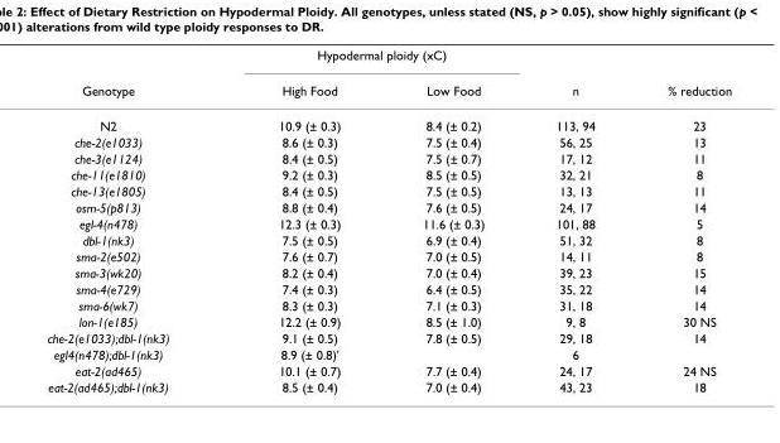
<table><thead><tr><td rowspan="2">Genotype</td><td colspan="2">Hypodermal ploidy (xC)</td><td rowspan="2">n</td><td rowspan="2">% reduction</td></tr><tr><td>High Food</td><td>Low Food</td></tr></thead><tbody><tr><td>N2</td><td>10.9 (± 0.3)</td><td>8.4 (± 0.2)</td><td>113, 94</td><td>23</td></tr><tr><td>che-2(e1033)</td><td>8.6 (± 0.3)</td><td>7.5 (± 0.4)</td><td>56, 25</td><td>13</td></tr><tr><td>che-3(e1124)</td><td>8.4 (± 0.5)</td><td>7.5 (± 0.7)</td><td>17, 12</td><td>11</td></tr><tr><td>che-11(e1810)</td><td>9.2 (± 0.3)</td><td>8.5 (± 0.5)</td><td>32, 21</td><td>8</td></tr><tr><td>che-13(e1805)</td><td>8.4 (± 0.5)</td><td>7.5 (± 0.5)</td><td>13, 13</td><td>11</td></tr><tr><td>osm-5(p813)</td><td>8.8 (± 0.4)</td><td>7.6 (± 0.5)</td><td>24, 17</td><td>14</td></tr><tr><td>egl-4(n478)</td><td>12.3 (± 0.3)</td><td>11.6 (± 0.3)</td><td>101, 88</td><td>5</td></tr><tr><td>dbl-1(nk3)</td><td>7.5 (± 0.5)</td><td>6.9 (± 0.4)</td><td>51, 32</td><td>8</td></tr><tr><td>sma-2(e502)</td><td>7.6 (± 0.7)</td><td>7.0 (± 0.5)</td><td>14, 11</td><td>8</td></tr><tr><td>sma-3(wk20)</td><td>8.2 (± 0.4)</td><td>7.0 (± 0.4)</td><td>39, 23</td><td>15</td></tr><tr><td>sma-4(e729)</td><td>7.4 (± 0.3)</td><td>6.4 (± 0.5)</td><td>35, 22</td><td>14</td></tr><tr><td>sma-6(wk7)</td><td>8.3 (± 0.3)</td><td>7.1 (± 0.3)</td><td>31, 18</td><td>14</td></tr><tr><td>lon-1(e185)</td><td>12.2 (± 0.9)</td><td>8.5 (± 1.0)</td><td>9, 8</td><td>30 NS</td></tr><tr><td>che-2(e1033);dbl-1(nk3)</td><td>9.1 (± 0.5)</td><td>7.8 (± 0.5)</td><td>29, 18</td><td>14</td></tr><tr><td>egl4(n478);dbl-1(nk3)</td><td>8.9 (± 0.8)&#x27;</td><td></td><td>6</td><td></td></tr><tr><td>eat-2(ad465)</td><td>10.1 (± 0.7)</td><td>7.7 (± 0.4)</td><td>24, 17</td><td>24 NS</td></tr><tr><td>eat-2(ad465);dbl-1(nk3)</td><td>8.5 (± 0.4)</td><td>7.0 (± 0.4)</td><td>43, 23</td><td>18</td></tr></tbody></table>